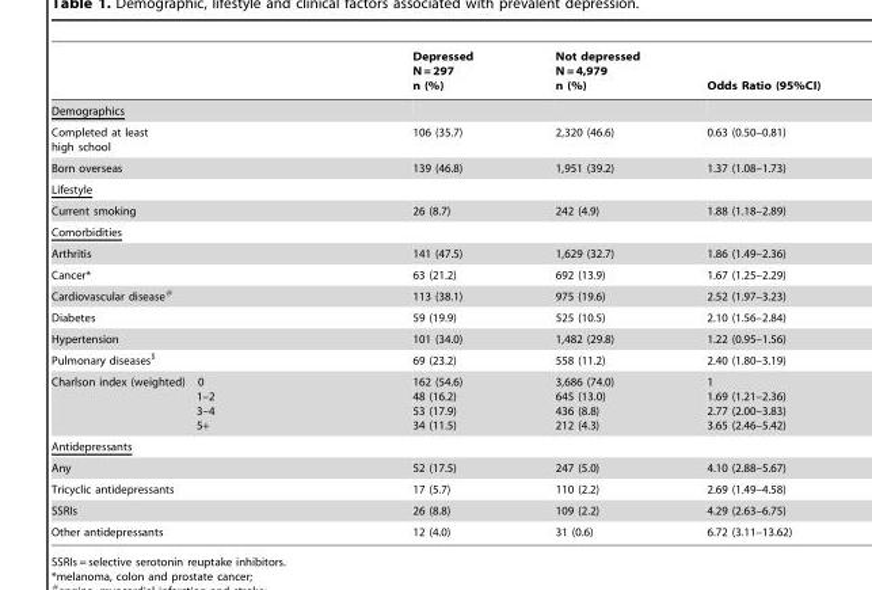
<table><thead><tr><td></td><td>Depressed N = 297 n (%)</td><td>Not depressed N = 4,979 n (%)</td><td>Odds Ratio (95%CI)</td></tr></thead><tbody><tr><td colspan="4">Demographics</td></tr><tr><td>Completed at least high school</td><td>106 (35.7)</td><td>2,320 (46.6)</td><td>0.63 (0.50–0.81)</td></tr><tr><td>Born overseas</td><td>139 (46.8)</td><td>1,951 (39.2)</td><td>1.37 (1.08–1.73)</td></tr><tr><td colspan="4">Lifestyle</td></tr><tr><td>Current smoking</td><td>26 (8.7)</td><td>242 (4.9)</td><td>1.88 (1.18–2.89)</td></tr><tr><td colspan="4">Comorbidities</td></tr><tr><td>Arthritis</td><td>141 (47.5)</td><td>1,629 (32.7)</td><td>1.86 (1.49–2.36)</td></tr><tr><td>Cancer*</td><td>63 (21.2)</td><td>692 (13.9)</td><td>1.67 (1.25–2.29)</td></tr><tr><td>Cardiovascular disease#</td><td>113 (38.1)</td><td>975 (19.6)</td><td>2.52 (1.97–3.23)</td></tr><tr><td>Diabetes</td><td>59 (19.9)</td><td>525 (10.5)</td><td>2.10 (1.56–2.84)</td></tr><tr><td>Hypertension</td><td>101 (34.0)</td><td>1,482 (29.8)</td><td>1.22 (0.95–1.56)</td></tr><tr><td>Pulmonary diseases$</td><td>69 (23.2)</td><td>558 (11.2)</td><td>2.40 (1.80–3.19)</td></tr><tr><td>Charlson index (weighted) 0 1–2 3–4 5+</td><td>162 (54.6) 48 (16.2) 53 (17.9) 34 (11.5)</td><td>3,686 (74.0) 645 (13.0) 436 (8.8) 212 (4.3)</td><td>1 1.69 (1.21–2.36) 2.77 (2.00–3.83) 3.65 (2.46–5.42)</td></tr><tr><td colspan="4">Antidepressants</td></tr><tr><td>Any</td><td>52 (17.5)</td><td>247 (5.0)</td><td>4.10 (2.88–5.67)</td></tr><tr><td>Tricyclic antidepressants</td><td>17 (5.7)</td><td>110 (2.2)</td><td>2.69 (1.49–4.58)</td></tr><tr><td>SSRIs</td><td>26 (8.8)</td><td>109 (2.2)</td><td>4.29 (2.63–6.75)</td></tr><tr><td>Other antidepressants</td><td>12 (4.0)</td><td>31 (0.6)</td><td>6.72 (3.11–13.62)</td></tr></tbody></table>